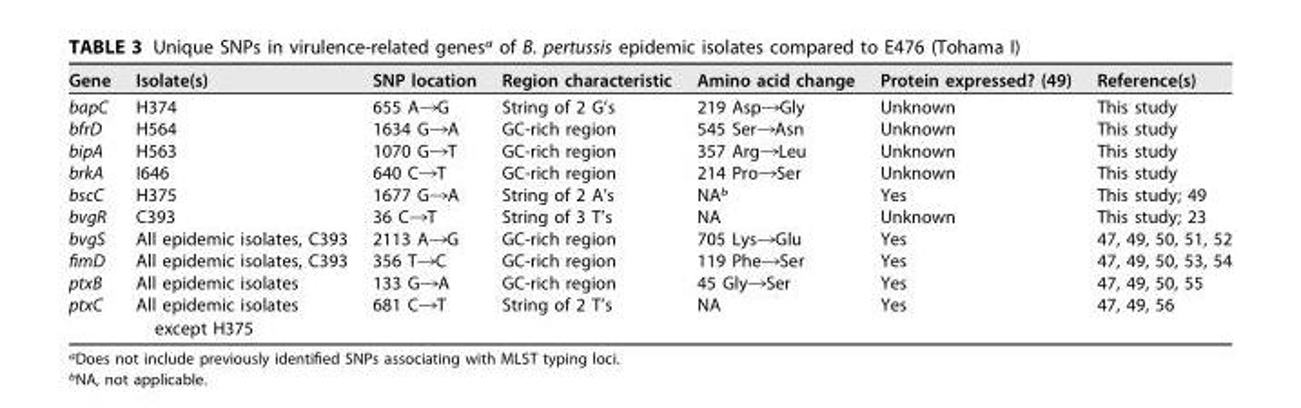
<table><thead><tr><td>Gene</td><td>Isolate(s)</td><td>SNP location</td><td>Region characteristic</td><td>Amino acid change</td><td>Protein expressed? (49)</td><td>Reference(s)</td></tr></thead><tbody><tr><td>bapC</td><td>H374</td><td>655 A→G</td><td>String of 2 G’s</td><td>219 Asp→Gly</td><td>Unknown</td><td>This study</td></tr><tr><td>bfrD</td><td>H564</td><td>1634 G→A</td><td>GC-rich region</td><td>545 Ser→Asn</td><td>Unknown</td><td>This study</td></tr><tr><td>bipA</td><td>H563</td><td>1070 G→T</td><td>GC-rich region</td><td>357 Arg→Leu</td><td>Unknown</td><td>This study</td></tr><tr><td>brkA</td><td>I646</td><td>640 C→T</td><td>GC-rich region</td><td>214 Pro→Ser</td><td>Unknown</td><td>This study</td></tr><tr><td>bscC</td><td>H375</td><td>1677 G→A</td><td>String of 2 A’s</td><td>NA<sup>b</sup></td><td>Yes</td><td>This study; 49</td></tr><tr><td>bvgR</td><td>C393</td><td>36 C→T</td><td>String of 3 T’s</td><td>NA</td><td>Unknown</td><td>This study; 23</td></tr><tr><td>bvgS</td><td>All epidemic isolates, C393</td><td>2113 A→G</td><td>GC-rich region</td><td>705 Lys→Glu</td><td>Yes</td><td>47, 49, 50, 51, 52</td></tr><tr><td>fimD</td><td>All epidemic isolates, C393</td><td>356 T→C</td><td>GC-rich region</td><td>119 Phe→Ser</td><td>Yes</td><td>47, 49, 50, 53, 54</td></tr><tr><td>ptxB</td><td>All epidemic isolates</td><td>133 G→A</td><td>GC-rich region</td><td>45 Gly→Ser</td><td>Yes</td><td>47, 49, 50, 55</td></tr><tr><td>ptxC</td><td>All epidemic isolates except H375</td><td>681 C→T</td><td>String of 2 T’s</td><td>NA</td><td>Yes</td><td>47, 49, 56</td></tr></tbody></table>